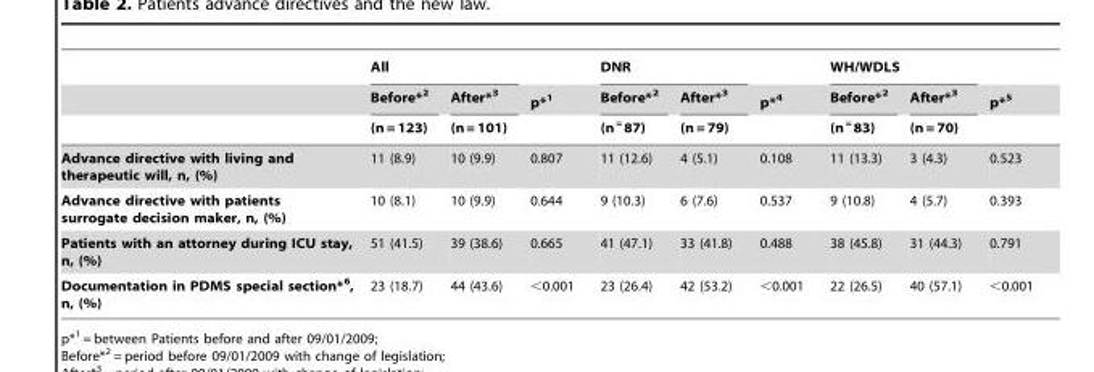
<table><thead><tr><td rowspan="3"></td><td colspan="2">All</td><td rowspan="3">p*<sup>1</sup></td><td colspan="2">DNR</td><td rowspan="3">p*<sup>4</sup></td><td colspan="2">WH/WDLS</td><td rowspan="3">p*<sup>5</sup></td></tr><tr><td rowspan="2">Before*<sup>2</sup> (n = 123)</td><td rowspan="2">After*<sup>3</sup> (n = 101)</td><td rowspan="2">Before*<sup>2</sup> (n <sup>=</sup>87)</td><td rowspan="2">After*<sup>3</sup> (n = 79)</td><td rowspan="2">Before*<sup>2</sup> (n <sup>=</sup>83)</td><td rowspan="2">After*<sup>3</sup> (n = 70)</td></tr><tr></tr></thead><tbody><tr><td>Advance directive with living and therapeutic will, n, (%)</td><td>11 (8.9)</td><td>10 (9.9)</td><td>0.807</td><td>11 (12.6)</td><td>4 (5.1)</td><td>0.108</td><td>11 (13.3)</td><td>3 (4.3)</td><td>0.523</td></tr><tr><td>Advance directive with patients surrogate decision maker, n, (%)</td><td>10 (8.1)</td><td>10 (9.9)</td><td>0.644</td><td>9 (10.3)</td><td>6 (7.6)</td><td>0.537</td><td>9 (10.8)</td><td>4 (5.7)</td><td>0.393</td></tr><tr><td>Patients with an attorney during ICU stay, n, (%)</td><td>51 (41.5)</td><td>39 (38.6)</td><td>0.665</td><td>41 (47.1)</td><td>33 (41.8)</td><td>0.488</td><td>38 (45.8)</td><td>31 (44.3)</td><td>0.791</td></tr><tr><td>Documentation in PDMS special section*<sup>6</sup>, n, (%)</td><td>23 (18.7)</td><td>44 (43.6)</td><td>&lt;0.001</td><td>23 (26.4)</td><td>42 (53.2)</td><td>&lt;0.001</td><td>22 (26.5)</td><td>40 (57.1)</td><td>&lt;0.001</td></tr></tbody></table>